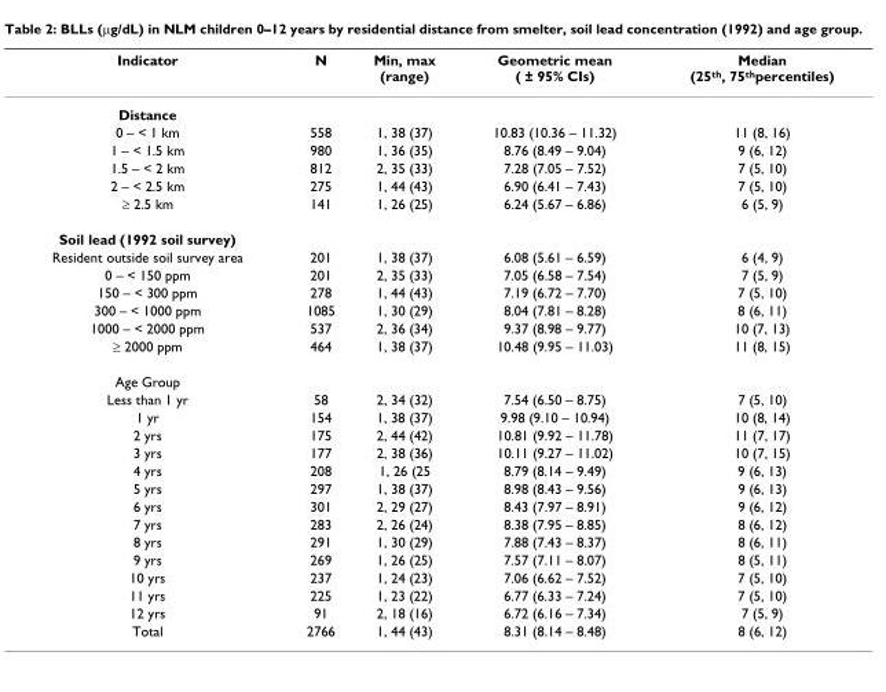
<table><thead><tr><td>Indicator</td><td>N</td><td>Min, max (range)</td><td>Geometric mean ( ± 95% CIs)</td><td>Median (25<sup>th</sup>, 75<sup>th</sup>percentiles)</td></tr></thead><tbody><tr><td colspan="5">Distance</td></tr><tr><td>0 – &lt; 1 km</td><td>558</td><td>1, 38 (37)</td><td>10.83 (10.36 – 11.32)</td><td>11 (8, 16)</td></tr><tr><td>1 – &lt; 1.5 km</td><td>980</td><td>1, 36 (35)</td><td>8.76 (8.49 – 9.04)</td><td>9 (6, 12)</td></tr><tr><td>1.5 – &lt; 2 km</td><td>812</td><td>2, 35 (33)</td><td>7.28 (7.05 – 7.52)</td><td>7 (5, 10)</td></tr><tr><td>2 – &lt; 2.5 km</td><td>275</td><td>1, 44 (43)</td><td>6.90 (6.41 – 7.43)</td><td>7 (5, 10)</td></tr><tr><td>≥ 2.5 km</td><td>141</td><td>1, 26 (25)</td><td>6.24 (5.67 – 6.86)</td><td>6 (5, 9)</td></tr><tr><td colspan="5">Soil lead (1992 soil survey)</td></tr><tr><td>Resident outside soil survey area</td><td>201</td><td>1, 38 (37)</td><td>6.08 (5.61 – 6.59)</td><td>6 (4, 9)</td></tr><tr><td>0 – &lt; 150 ppm</td><td>201</td><td>2, 35 (33)</td><td>7.05 (6.58 – 7.54)</td><td>7 (5, 9)</td></tr><tr><td>150 – &lt; 300 ppm</td><td>278</td><td>1, 44 (43)</td><td>7.19 (6.72 – 7.70)</td><td>7 (5, 10)</td></tr><tr><td>300 – &lt; 1000 ppm</td><td>1085</td><td>1, 30 (29)</td><td>8.04 (7.81 – 8.28)</td><td>8 (6, 11)</td></tr><tr><td>1000 – &lt; 2000 ppm</td><td>537</td><td>2, 36 (34)</td><td>9.37 (8.98 – 9.77)</td><td>10 (7, 13)</td></tr><tr><td>≥ 2000 ppm</td><td>464</td><td>1, 38 (37)</td><td>10.48 (9.95 – 11.03)</td><td>11 (8, 15)</td></tr><tr><td colspan="5">Age Group</td></tr><tr><td>Less than 1 yr</td><td>58</td><td>2, 34 (32)</td><td>7.54 (6.50 – 8.75)</td><td>7 (5, 10)</td></tr><tr><td>1 yr</td><td>154</td><td>1, 38 (37)</td><td>9.98 (9.10 – 10.94)</td><td>10 (8, 14)</td></tr><tr><td>2 yrs</td><td>175</td><td>2, 44 (42)</td><td>10.81 (9.92 – 11.78)</td><td>11 (7, 17)</td></tr><tr><td>3 yrs</td><td>177</td><td>2, 38 (36)</td><td>10.11 (9.27 – 11.02)</td><td>10 (7, 15)</td></tr><tr><td>4 yrs</td><td>208</td><td>1, 26 (25</td><td>8.79 (8.14 – 9.49)</td><td>9 (6, 13)</td></tr><tr><td>5 yrs</td><td>297</td><td>1, 38 (37)</td><td>8.98 (8.43 – 9.56)</td><td>9 (6, 13)</td></tr><tr><td>6 yrs</td><td>301</td><td>2, 29 (27)</td><td>8.43 (7.97 – 8.91)</td><td>9 (6, 12)</td></tr><tr><td>7 yrs</td><td>283</td><td>2, 26 (24)</td><td>8.38 (7.95 – 8.85)</td><td>8 (6, 12)</td></tr><tr><td>8 yrs</td><td>291</td><td>1, 30 (29)</td><td>7.88 (7.43 – 8.37)</td><td>8 (6, 11)</td></tr><tr><td>9 yrs</td><td>269</td><td>1, 26 (25)</td><td>7.57 (7.11 – 8.07)</td><td>8 (5, 11)</td></tr><tr><td>10 yrs</td><td>237</td><td>1, 24 (23)</td><td>7.06 (6.62 – 7.52)</td><td>7 (5, 10)</td></tr><tr><td>11 yrs</td><td>225</td><td>1, 23 (22)</td><td>6.77 (6.33 – 7.24)</td><td>7 (5, 10)</td></tr><tr><td>12 yrs</td><td>91</td><td>2, 18 (16)</td><td>6.72 (6.16 – 7.34)</td><td>7 (5, 9)</td></tr><tr><td>Total</td><td>2766</td><td>1, 44 (43)</td><td>8.31 (8.14 – 8.48)</td><td>8 (6, 12)</td></tr></tbody></table>